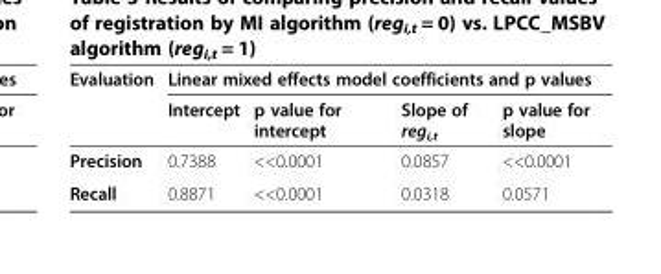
<table><thead><tr><td rowspan="2">Evaluation</td><td colspan="4">Linear mixed effects model coefficients and p values</td></tr><tr><td>Intercept</td><td>p value for intercept</td><td>Slope of reg<sub>i,t</sub></td><td>p value for slope</td></tr></thead><tbody><tr><td>Precision</td><td>0.7388</td><td>&lt;&lt;0.0001</td><td>0.0857</td><td>&lt;&lt;0.0001</td></tr><tr><td>Recall</td><td>0.8871</td><td>&lt;&lt;0.0001</td><td>0.0318</td><td>0.0571</td></tr></tbody></table>